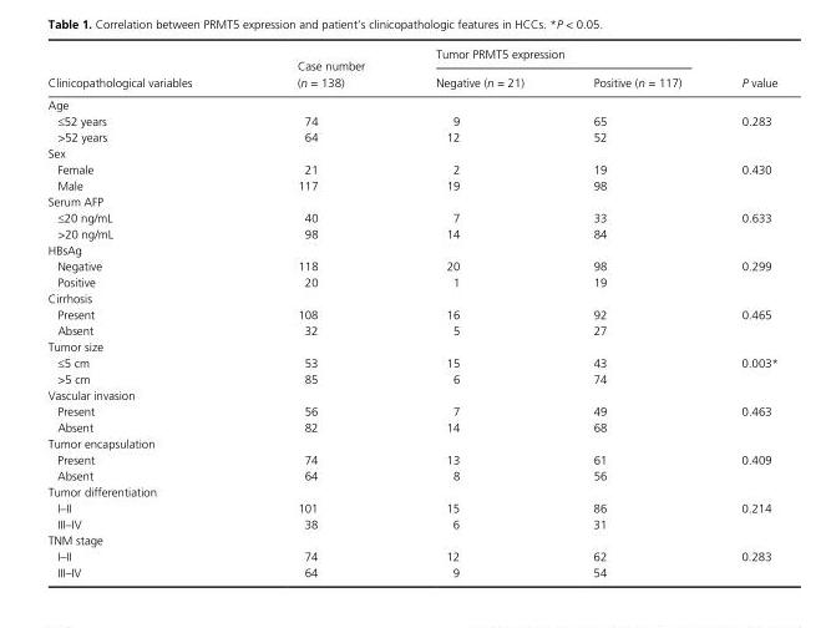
<table><thead><tr><td rowspan="2">Clinicopathological variables</td><td rowspan="2">Case number (n = 138)</td><td colspan="2">Tumor PRMT5 expression</td><td rowspan="2">P value</td></tr><tr><td>Negative (n = 21)</td><td>Positive (n = 117)</td></tr></thead><tbody><tr><td colspan="5">Age</td></tr><tr><td>≤52 years</td><td>74</td><td>9</td><td>65</td><td rowspan="2">0.283</td></tr><tr><td>&gt;52 years</td><td>64</td><td>12</td><td>52</td></tr><tr><td colspan="5">Sex</td></tr><tr><td>Female</td><td>21</td><td>2</td><td>19</td><td rowspan="2">0.430</td></tr><tr><td>Male</td><td>117</td><td>19</td><td>98</td></tr><tr><td colspan="5">Serum AFP</td></tr><tr><td>≤20 ng/mL</td><td>40</td><td>7</td><td>33</td><td rowspan="2">0.633</td></tr><tr><td>&gt;20 ng/mL</td><td>98</td><td>14</td><td>84</td></tr><tr><td colspan="5">HBsAg</td></tr><tr><td>Negative</td><td>118</td><td>20</td><td>98</td><td rowspan="2">0.299</td></tr><tr><td>Positive</td><td>20</td><td>1</td><td>19</td></tr><tr><td colspan="5">Cirrhosis</td></tr><tr><td>Present</td><td>108</td><td>16</td><td>92</td><td rowspan="2">0.465</td></tr><tr><td>Absent</td><td>32</td><td>5</td><td>27</td></tr><tr><td colspan="5">Tumor size</td></tr><tr><td>≤5 cm</td><td>53</td><td>15</td><td>43</td><td rowspan="2">0.003*</td></tr><tr><td>&gt;5 cm</td><td>85</td><td>6</td><td>74</td></tr><tr><td colspan="5">Vascular invasion</td></tr><tr><td>Present</td><td>56</td><td>7</td><td>49</td><td rowspan="2">0.463</td></tr><tr><td>Absent</td><td>82</td><td>14</td><td>68</td></tr><tr><td colspan="5">Tumor encapsulation</td></tr><tr><td>Present</td><td>74</td><td>13</td><td>61</td><td rowspan="2">0.409</td></tr><tr><td>Absent</td><td>64</td><td>8</td><td>56</td></tr><tr><td colspan="5">Tumor differentiation</td></tr><tr><td>I–II</td><td>101</td><td>15</td><td>86</td><td rowspan="2">0.214</td></tr><tr><td>III–IV</td><td>38</td><td>6</td><td>31</td></tr><tr><td colspan="5">TNM stage</td></tr><tr><td>I–II</td><td>74</td><td>12</td><td>62</td><td rowspan="2">0.283</td></tr><tr><td>III–IV</td><td>64</td><td>9</td><td>54</td></tr></tbody></table>